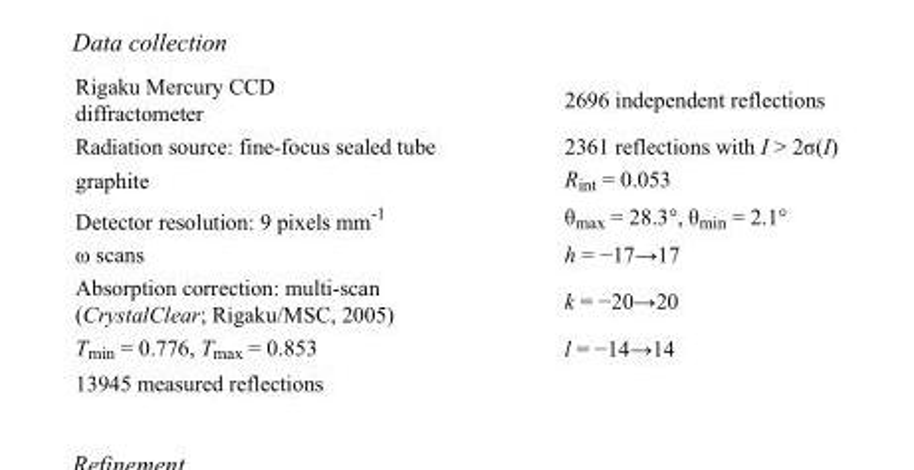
<table><tbody><tr><td>Rigaku Mercury CCD diffractometer</td><td>2696 independent reflections</td></tr><tr><td>Radiation source: fine-focus sealed tube</td><td>2361 reflections with I &gt; 2σ(I)</td></tr><tr><td>graphite</td><td>R<sub>int</sub> = 0.053</td></tr><tr><td>Detector resolution: 9 pixels mm<sup>-1</sup></td><td>θ<sub>max</sub> = 28.3°, θ<sub>min</sub> = 2.1°</td></tr><tr><td>ω scans</td><td>h = −17→17</td></tr><tr><td>Absorption correction: multi-scan (CrystalClear; Rigaku/MSC, 2005)</td><td>k = −20→20</td></tr><tr><td>T<sub>min</sub> = 0.776, T<sub>max</sub> = 0.853</td><td>l = −14→14</td></tr><tr><td>13945 measured reflections</td><td></td></tr></tbody></table>